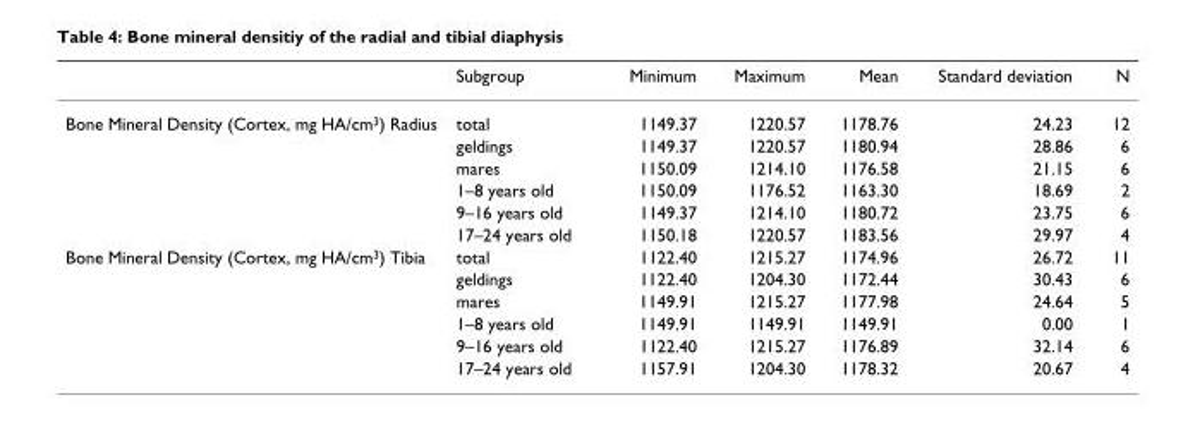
<table><thead><tr><td></td><td>Subgroup</td><td>Minimum</td><td>Maximum</td><td>Mean</td><td>Standard deviation</td><td>N</td></tr></thead><tbody><tr><td rowspan="6">Bone Mineral Density (Cortex, mg HA/cm<sup>3</sup>) Radius</td><td>total</td><td>1149.37</td><td>1220.57</td><td>1178.76</td><td>24.23</td><td>12</td></tr><tr><td>geldings</td><td>1149.37</td><td>1220.57</td><td>1180.94</td><td>28.86</td><td>6</td></tr><tr><td>mares</td><td>1150.09</td><td>1214.10</td><td>1176.58</td><td>21.15</td><td>6</td></tr><tr><td>1–8 years old</td><td>1150.09</td><td>1176.52</td><td>1163.30</td><td>18.69</td><td>2</td></tr><tr><td>9–16 years old</td><td>1149.37</td><td>1214.10</td><td>1180.72</td><td>23.75</td><td>6</td></tr><tr><td>17–24 years old</td><td>1150.18</td><td>1220.57</td><td>1183.56</td><td>29.97</td><td>4</td></tr><tr><td rowspan="6">Bone Mineral Density (Cortex, mg HA/cm<sup>3</sup>) Tibia</td><td>total</td><td>1122.40</td><td>1215.27</td><td>1174.96</td><td>26.72</td><td>11</td></tr><tr><td>geldings</td><td>1122.40</td><td>1204.30</td><td>1172.44</td><td>30.43</td><td>6</td></tr><tr><td>mares</td><td>1149.91</td><td>1215.27</td><td>1177.98</td><td>24.64</td><td>5</td></tr><tr><td>1–8 years old</td><td>1149.91</td><td>1149.91</td><td>1149.91</td><td>0.00</td><td>1</td></tr><tr><td>9–16 years old</td><td>1122.40</td><td>1215.27</td><td>1176.89</td><td>32.14</td><td>6</td></tr><tr><td>17–24 years old</td><td>1157.91</td><td>1204.30</td><td>1178.32</td><td>20.67</td><td>4</td></tr></tbody></table>